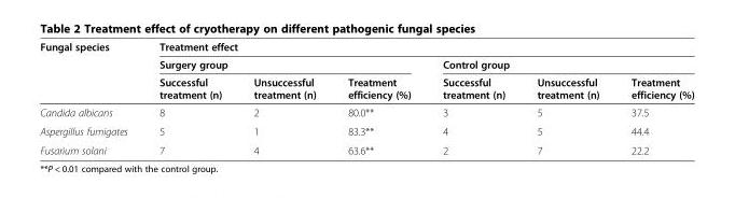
<table><thead><tr><td rowspan="3">Fungal species</td><td colspan="6">Treatment effect</td></tr><tr><td colspan="3">Surgery group</td><td colspan="3">Control group</td></tr><tr><td>Successful treatment (n)</td><td>Unsuccessful treatment (n)</td><td>Treatment efficiency (%)</td><td>Successful treatment (n)</td><td>Unsuccessful treatment (n)</td><td>Treatment efficiency (%)</td></tr></thead><tbody><tr><td>Candida albicans</td><td>8</td><td>2</td><td>80.0**</td><td>3</td><td>5</td><td>37.5</td></tr><tr><td>Aspergillus fumigates</td><td>5</td><td>1</td><td>83.3**</td><td>4</td><td>5</td><td>44.4</td></tr><tr><td>Fusarium solani</td><td>7</td><td>4</td><td>63.6**</td><td>2</td><td>7</td><td>22.2</td></tr></tbody></table>